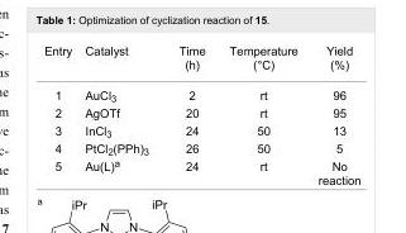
<table><tbody><tr><td>Entry</td><td>Catalyst</td><td>Time (h)</td><td>Temperature (°C)</td><td>Yield (%)</td></tr><tr><td>1</td><td>AuCl<sub>3</sub></td><td>2</td><td>rt</td><td>96</td></tr><tr><td>2</td><td>AgOTf</td><td>20</td><td>rt</td><td>95</td></tr><tr><td>3</td><td>InCl<sub>3</sub></td><td>24</td><td>50</td><td>13</td></tr><tr><td>4</td><td>PtCl<sub>2</sub>(PPh)<sub>3</sub></td><td>26</td><td>50</td><td>5</td></tr><tr><td>5</td><td>Au(L)<sup>a</sup></td><td>24</td><td>rt</td><td>No reaction</td></tr></tbody></table>